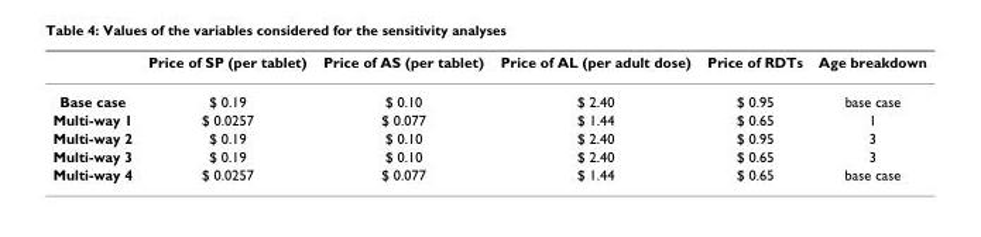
<table><thead><tr><td></td><td>Price of SP (per tablet)</td><td>Price of AS (per tablet)</td><td>Price of AL (per adult dose)</td><td>Price of RDTs</td><td>Age breakdown</td></tr></thead><tbody><tr><td>Base case</td><td>$ 0.19</td><td>$ 0.10</td><td>$ 2.40</td><td>$ 0.95</td><td>base case</td></tr><tr><td>Multi-way 1</td><td>$ 0.0257</td><td>$ 0.077</td><td>$ 1.44</td><td>$ 0.65</td><td>1</td></tr><tr><td>Multi-way 2</td><td>$ 0.19</td><td>$ 0.10</td><td>$ 2.40</td><td>$ 0.95</td><td>3</td></tr><tr><td>Multi-way 3</td><td>$ 0.19</td><td>$ 0.10</td><td>$ 2.40</td><td>$ 0.65</td><td>3</td></tr><tr><td>Multi-way 4</td><td>$ 0.0257</td><td>$ 0.077</td><td>$ 1.44</td><td>$ 0.65</td><td>base case</td></tr></tbody></table>